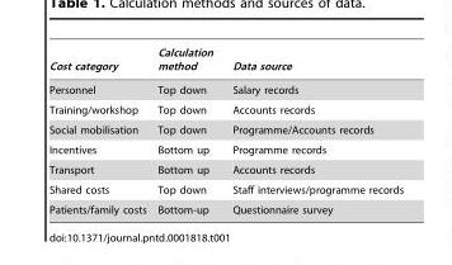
<table><thead><tr><td>Cost category</td><td>Calculation method</td><td>Data source</td></tr></thead><tbody><tr><td>Personnel</td><td>Top down</td><td>Salary records</td></tr><tr><td>Training/workshop</td><td>Top down</td><td>Accounts records</td></tr><tr><td>Social mobilisation</td><td>Top down</td><td>Programme/Accounts records</td></tr><tr><td>Incentives</td><td>Bottom up</td><td>Programme records</td></tr><tr><td>Transport</td><td>Bottom up</td><td>Accounts records</td></tr><tr><td>Shared costs</td><td>Top down</td><td>Staff interviews/programme records</td></tr><tr><td>Patients/family costs</td><td>Bottom-up</td><td>Questionnaire survey</td></tr></tbody></table>